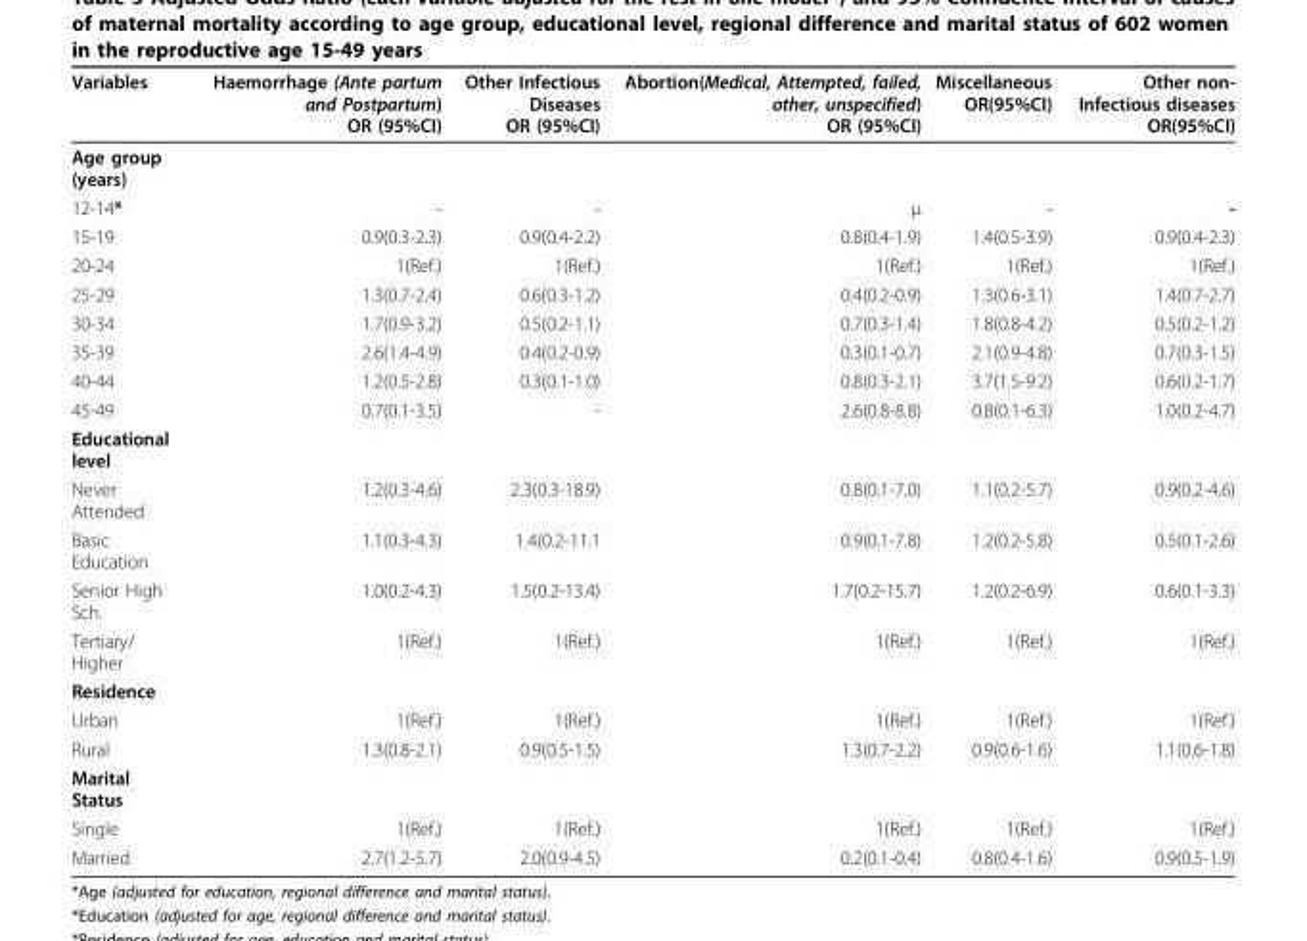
<table><thead><tr><td>Variables</td><td>Haemorrhage (Ante partum and Postpartum) OR (95%CI)</td><td>Other Infectious Diseases OR (95%CI)</td><td>Abortion(Medical, Attempted, failed, other, unspecified) OR (95%CI)</td><td>Miscellaneous OR(95%CI)</td><td>Other non- Infectious diseases OR(95%CI)</td></tr></thead><tbody><tr><td colspan="6">Age group (years)</td></tr><tr><td>12-14*</td><td>-</td><td>-</td><td>μ</td><td>-</td><td>-</td></tr><tr><td>15-19</td><td>0.9(0.3-2.3)</td><td>0.9(0.4-2.2)</td><td>0.8(0.4-1.9)</td><td>1.4(0.5-3.9)</td><td>0.9(0.4-2.3)</td></tr><tr><td>20-24</td><td>1(Ref.)</td><td>1(Ref.)</td><td>1(Ref.)</td><td>1(Ref.)</td><td>1(Ref.)</td></tr><tr><td>25-29</td><td>1.3(0.7-2.4)</td><td>0.6(0.3-1.2)</td><td>0.4(0.2-0.9)</td><td>1.3(0.6-3.1)</td><td>1.4(0.7-2.7)</td></tr><tr><td>30-34</td><td>1.7(0.9-3.2)</td><td>0.5(0.2-1.1)</td><td>0.7(0.3-1.4)</td><td>1.8(0.8-4.2)</td><td>0.5(0.2-1.2)</td></tr><tr><td>35-39</td><td>2.6(1.4-4.9)</td><td>0.4(0.2-0.9)</td><td>0.3(0.1-0.7)</td><td>2.1(0.9-4.8)</td><td>0.7(0.3-1.5)</td></tr><tr><td>40-44</td><td>1.2(0.5-2.8)</td><td>0.3(0.1-1.0)</td><td>0.8(0.3-2.1)</td><td>3.7(1.5-9.2)</td><td>0.6(0.2-1.7)</td></tr><tr><td>45-49</td><td>0.7(0.1-3.5)</td><td>-</td><td>2.6(0.8-8.8)</td><td>0.8(0.1-6.3)</td><td>1.0(0.2-4.7)</td></tr><tr><td colspan="6">Educational level</td></tr><tr><td>Never Attended</td><td>1.2(0.3-4.6)</td><td>2.3(0.3-18.9)</td><td>0.8(0.1-7.0)</td><td>1.1(0.2-5.7)</td><td>0.9(0.2-4.6)</td></tr><tr><td>Basic Education</td><td>1.1(0.3-4.3)</td><td>1.4(0.2-11.1</td><td>0.9(0.1-7.8)</td><td>1.2(0.2-5.8)</td><td>0.5(0.1-2.6)</td></tr><tr><td>Senior High Sch.</td><td>1.0(0.2-4.3)</td><td>1.5(0.2-13.4)</td><td>1.7(0.2-15.7)</td><td>1.2(0.2-6.9)</td><td>0.6(0.1-3.3)</td></tr><tr><td>Tertiary/ Higher</td><td>1(Ref.)</td><td>1(Ref.)</td><td>1(Ref.)</td><td>1(Ref.)</td><td>1(Ref.)</td></tr><tr><td colspan="6">Residence</td></tr><tr><td>Urban</td><td>1(Ref.)</td><td>1(Ref.)</td><td>1(Ref.)</td><td>1(Ref.)</td><td>1(Ref.)</td></tr><tr><td>Rural</td><td>1.3(0.8-2.1)</td><td>0.9(0.5-1.5)</td><td>1.3(0.7-2.2)</td><td>0.9(0.6-1.6)</td><td>1.1(0.6-1.8)</td></tr><tr><td colspan="6">Marital Status</td></tr><tr><td>Single</td><td>1(Ref.)</td><td>1(Ref.)</td><td>1(Ref.)</td><td>1(Ref.)</td><td>1(Ref.)</td></tr><tr><td>Married</td><td>2.7(1.2-5.7)</td><td>2.0(0.9-4.5)</td><td>0.2(0.1-0.4)</td><td>0.8(0.4-1.6)</td><td>0.9(0.5-1.9)</td></tr></tbody></table>